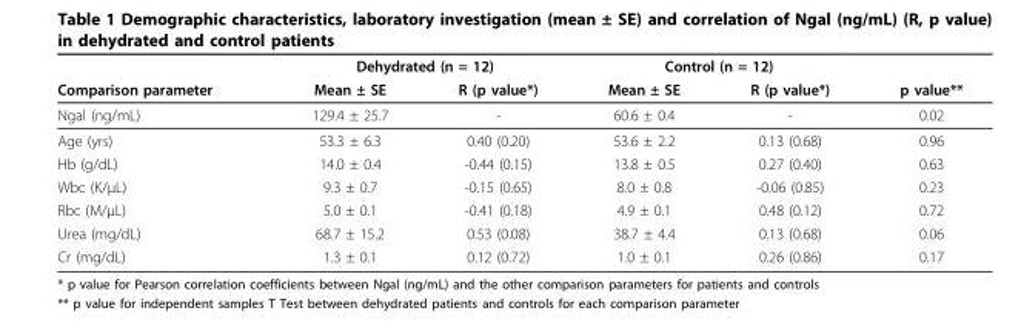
<table><thead><tr><td rowspan="2">Comparison parameter</td><td colspan="2">Dehydrated (n = 12)</td><td colspan="2">Control (n = 12)</td><td rowspan="2">p value**</td></tr><tr><td>Mean ± SE</td><td>R (p value*)</td><td>Mean ± SE</td><td>R (p value*)</td></tr></thead><tbody><tr><td>Ngal (ng/mL)</td><td>129.4 ± 25.7</td><td>-</td><td>60.6 ± 0.4</td><td>-</td><td>0.02</td></tr><tr><td>Age (yrs)</td><td>53.3 ± 6.3</td><td>0.40 (0.20)</td><td>53.6 ± 2.2</td><td>0.13 (0.68)</td><td>0.96</td></tr><tr><td>Hb (g/dL)</td><td>14.0 ± 0.4</td><td>-0.44 (0.15)</td><td>13.8 ± 0.5</td><td>0.27 (0.40)</td><td>0.63</td></tr><tr><td>Wbc (K/μL)</td><td>9.3 ± 0.7</td><td>-0.15 (0.65)</td><td>8.0 ± 0.8</td><td>-0.06 (0.85)</td><td>0.23</td></tr><tr><td>Rbc (M/μL)</td><td>5.0 ± 0.1</td><td>-0.41 (0.18)</td><td>4.9 ± 0.1</td><td>0.48 (0.12)</td><td>0.72</td></tr><tr><td>Urea (mg/dL)</td><td>68.7 ± 15.2</td><td>0.53 (0.08)</td><td>38.7 ± 4.4</td><td>0.13 (0.68)</td><td>0.06</td></tr><tr><td>Cr (mg/dL)</td><td>1.3 ± 0.1</td><td>0.12 (0.72)</td><td>1.0 ± 0.1</td><td>0.26 (0.86)</td><td>0.17</td></tr></tbody></table>